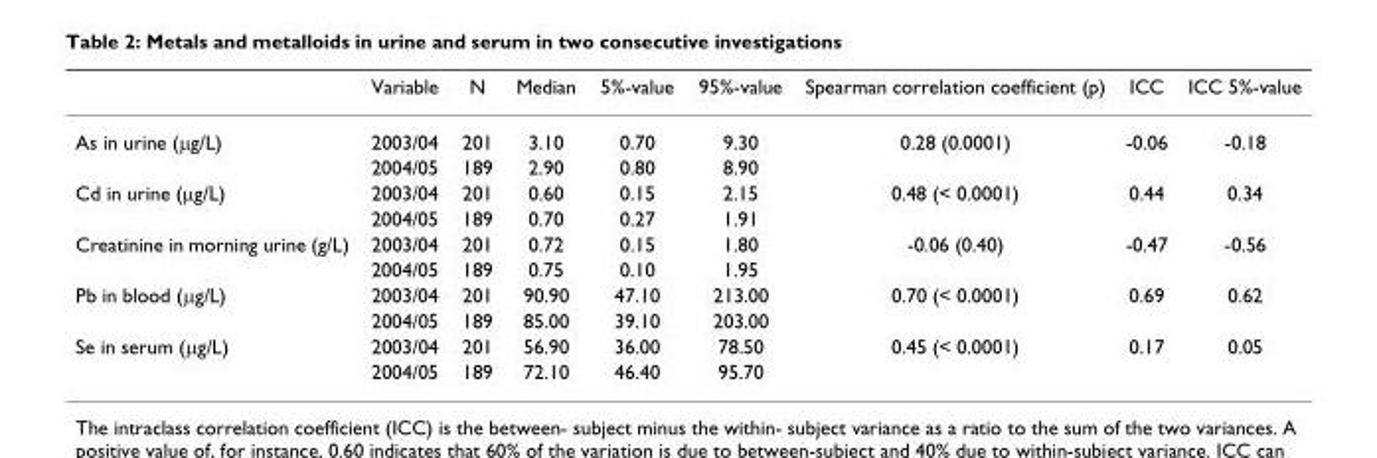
<table><thead><tr><td></td><td>Variable</td><td>N</td><td>Median</td><td>5%-value</td><td>95%-value</td><td>Spearman correlation coefficient (p)</td><td>ICC</td><td>ICC 5%-value</td></tr></thead><tbody><tr><td rowspan="2">As in urine (μg/L)</td><td>2003/04</td><td>201</td><td>3.10</td><td>0.70</td><td>9.30</td><td>0.28 (0.0001)</td><td>-0.06</td><td>-0.18</td></tr><tr><td>2004/05</td><td>189</td><td>2.90</td><td>0.80</td><td>8.90</td><td></td><td></td><td></td></tr><tr><td rowspan="2">Cd in urine (μg/L)</td><td>2003/04</td><td>201</td><td>0.60</td><td>0.15</td><td>2.15</td><td>0.48 (&lt; 0.0001)</td><td>0.44</td><td>0.34</td></tr><tr><td>2004/05</td><td>189</td><td>0.70</td><td>0.27</td><td>1.91</td><td></td><td></td><td></td></tr><tr><td rowspan="2">Creatinine in morning urine (g/L)</td><td>2003/04</td><td>201</td><td>0.72</td><td>0.15</td><td>1.80</td><td>-0.06 (0.40)</td><td>-0.47</td><td>-0.56</td></tr><tr><td>2004/05</td><td>189</td><td>0.75</td><td>0.10</td><td>1.95</td><td></td><td></td><td></td></tr><tr><td rowspan="2">Pb in blood (μg/L)</td><td>2003/04</td><td>201</td><td>90.90</td><td>47.10</td><td>213.00</td><td>0.70 (&lt; 0.0001)</td><td>0.69</td><td>0.62</td></tr><tr><td>2004/05</td><td>189</td><td>85.00</td><td>39.10</td><td>203.00</td><td></td><td></td><td></td></tr><tr><td rowspan="2">Se in serum (μg/L)</td><td>2003/04</td><td>201</td><td>56.90</td><td>36.00</td><td>78.50</td><td>0.45 (&lt; 0.0001)</td><td>0.17</td><td>0.05</td></tr><tr><td>2004/05</td><td>189</td><td>72.10</td><td>46.40</td><td>95.70</td><td></td><td></td><td></td></tr></tbody></table>